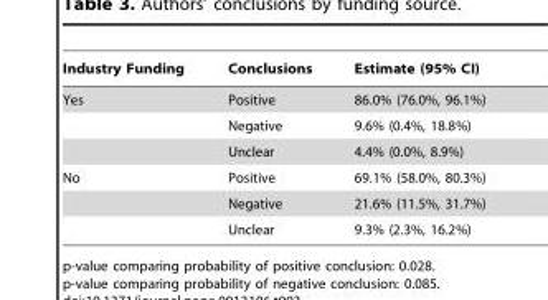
<table><thead><tr><td>Industry Funding</td><td>Conclusions</td><td>Estimate (95% CI)</td></tr></thead><tbody><tr><td rowspan="3">Yes</td><td>Positive</td><td>86.0% (76.0%, 96.1%)</td></tr><tr><td>Negative</td><td>9.6% (0.4%, 18.8%)</td></tr><tr><td>Unclear</td><td>4.4% (0.0%, 8.9%)</td></tr><tr><td rowspan="3">No</td><td>Positive</td><td>69.1% (58.0%, 80.3%)</td></tr><tr><td>Negative</td><td>21.6% (11.5%, 31.7%)</td></tr><tr><td>Unclear</td><td>9.3% (2.3%, 16.2%)</td></tr></tbody></table>